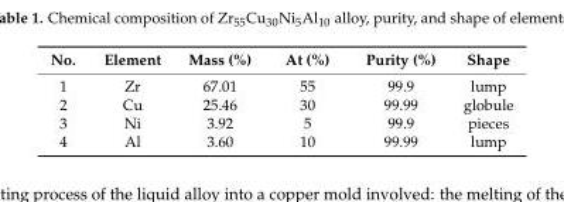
<table><thead><tr><td>No.</td><td>Element</td><td>Mass (%)</td><td>At (%)</td><td>Purity (%)</td><td>Shape</td></tr></thead><tbody><tr><td>1</td><td>Zr</td><td>67.01</td><td>55</td><td>99.9</td><td>lump</td></tr><tr><td>2</td><td>Cu</td><td>25.46</td><td>30</td><td>99.99</td><td>globule</td></tr><tr><td>3</td><td>Ni</td><td>3.92</td><td>5</td><td>99.9</td><td>pieces</td></tr><tr><td>4</td><td>Al</td><td>3.60</td><td>10</td><td>99.99</td><td>lump</td></tr></tbody></table>